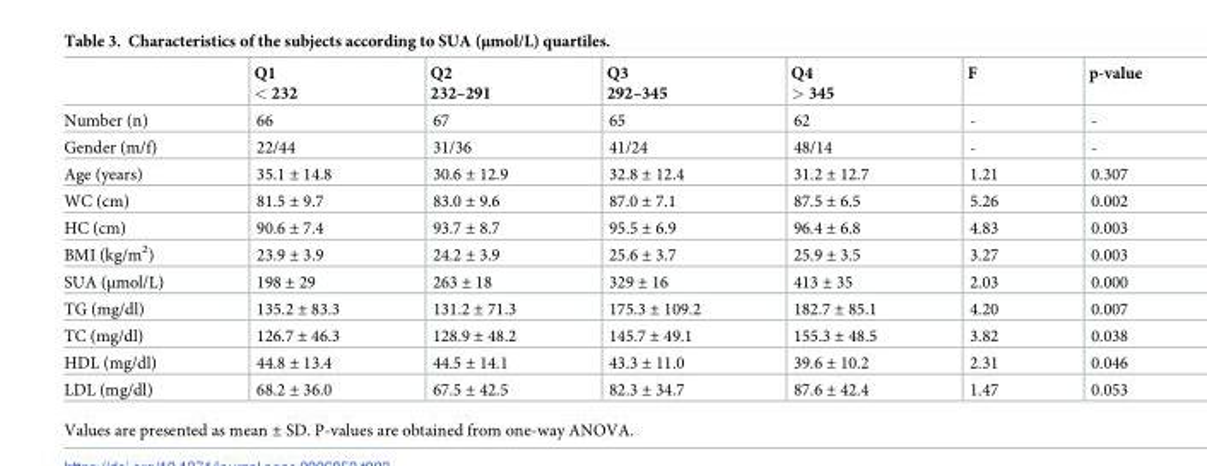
<table><thead><tr><td></td><td>Q1 &lt; 232</td><td>Q2 232–291</td><td>Q3 292–345</td><td>Q4 &gt; 345</td><td>F</td><td>p-value</td></tr></thead><tbody><tr><td>Number (n)</td><td>66</td><td>67</td><td>65</td><td>62</td><td>-</td><td>-</td></tr><tr><td>Gender (m/f)</td><td>22/44</td><td>31/36</td><td>41/24</td><td>48/14</td><td>-</td><td>-</td></tr><tr><td>Age (years)</td><td>35.1 ± 14.8</td><td>30.6 ± 12.9</td><td>32.8 ± 12.4</td><td>31.2 ± 12.7</td><td>1.21</td><td>0.307</td></tr><tr><td>WC (cm)</td><td>81.5 ± 9.7</td><td>83.0 ± 9.6</td><td>87.0 ± 7.1</td><td>87.5 ± 6.5</td><td>5.26</td><td>0.002</td></tr><tr><td>HC (cm)</td><td>90.6 ± 7.4</td><td>93.7 ± 8.7</td><td>95.5 ± 6.9</td><td>96.4 ± 6.8</td><td>4.83</td><td>0.003</td></tr><tr><td>BMI (kg/m<sup>2</sup>)</td><td>23.9 ± 3.9</td><td>24.2 ± 3.9</td><td>25.6 ± 3.7</td><td>25.9 ± 3.5</td><td>3.27</td><td>0.003</td></tr><tr><td>SUA (μmol/L)</td><td>198 ± 29</td><td>263 ± 18</td><td>329 ± 16</td><td>413 ± 35</td><td>2.03</td><td>0.000</td></tr><tr><td>TG (mg/dl)</td><td>135.2 ± 83.3</td><td>131.2 ± 71.3</td><td>175.3 ± 109.2</td><td>182.7 ± 85.1</td><td>4.20</td><td>0.007</td></tr><tr><td>TC (mg/dl)</td><td>126.7 ± 46.3</td><td>128.9 ± 48.2</td><td>145.7 ± 49.1</td><td>155.3 ± 48.5</td><td>3.82</td><td>0.038</td></tr><tr><td>HDL (mg/dl)</td><td>44.8 ± 13.4</td><td>44.5 ± 14.1</td><td>43.3 ± 11.0</td><td>39.6 ± 10.2</td><td>2.31</td><td>0.046</td></tr><tr><td>LDL (mg/dl)</td><td>68.2 ± 36.0</td><td>67.5 ± 42.5</td><td>82.3 ± 34.7</td><td>87.6 ± 42.4</td><td>1.47</td><td>0.053</td></tr></tbody></table>